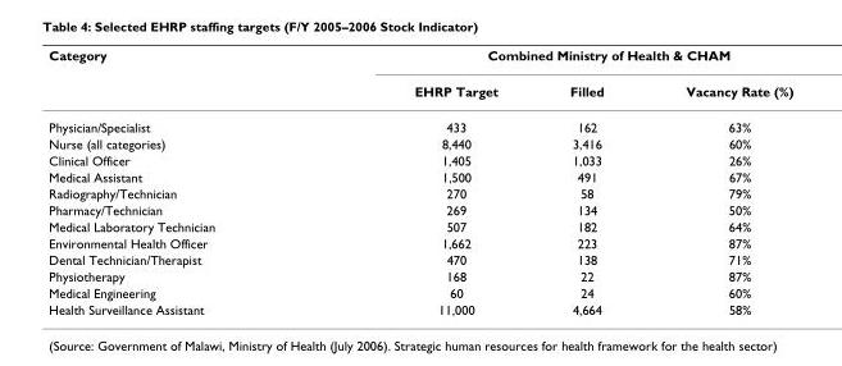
<table><thead><tr><td rowspan="2">Category</td><td colspan="3">Combined Ministry of Health &amp; CHAM</td></tr><tr><td>EHRP Target</td><td>Filled</td><td>Vacancy Rate (%)</td></tr></thead><tbody><tr><td>Physician/Specialist</td><td>433</td><td>162</td><td>63%</td></tr><tr><td>Nurse (all categories)</td><td>8,440</td><td>3,416</td><td>60%</td></tr><tr><td>Clinical Officer</td><td>1,405</td><td>1,033</td><td>26%</td></tr><tr><td>Medical Assistant</td><td>1,500</td><td>491</td><td>67%</td></tr><tr><td>Radiography/Technician</td><td>270</td><td>58</td><td>79%</td></tr><tr><td>Pharmacy/Technician</td><td>269</td><td>134</td><td>50%</td></tr><tr><td>Medical Laboratory Technician</td><td>507</td><td>182</td><td>64%</td></tr><tr><td>Environmental Health Officer</td><td>1,662</td><td>223</td><td>87%</td></tr><tr><td>Dental Technician/Therapist</td><td>470</td><td>138</td><td>71%</td></tr><tr><td>Physiotherapy</td><td>168</td><td>22</td><td>87%</td></tr><tr><td>Medical Engineering</td><td>60</td><td>24</td><td>60%</td></tr><tr><td>Health Surveillance Assistant</td><td>11,000</td><td>4,664</td><td>58%</td></tr></tbody></table>